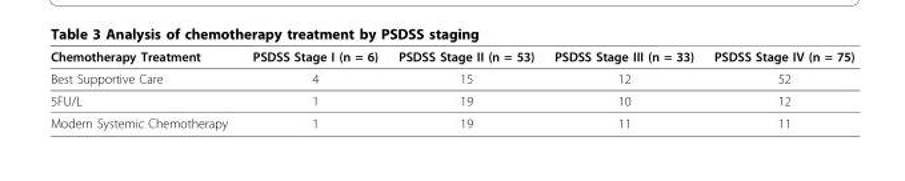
<table><thead><tr><td>Chemotherapy Treatment</td><td>PSDSS Stage I (n = 6)</td><td>PSDSS Stage II (n = 53)</td><td>PSDSS Stage III (n = 33)</td><td>PSDSS Stage IV (n = 75)</td></tr></thead><tbody><tr><td>Best Supportive Care</td><td>4</td><td>15</td><td>12</td><td>52</td></tr><tr><td>5FU/L</td><td>1</td><td>19</td><td>10</td><td>12</td></tr><tr><td>Modern Systemic Chemotherapy</td><td>1</td><td>19</td><td>11</td><td>11</td></tr></tbody></table>